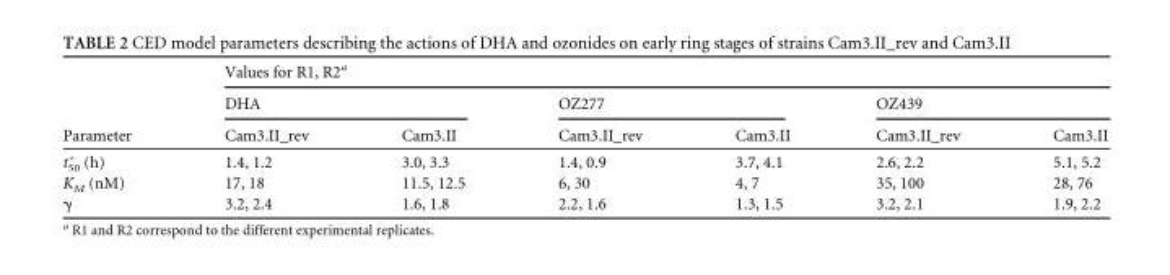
<table><thead><tr><td rowspan="3">Parameter</td><td colspan="6">Values for R1, R2<sup>a</sup></td></tr><tr><td colspan="2">DHA</td><td colspan="2">OZ277</td><td colspan="2">OZ439</td></tr><tr><td>Cam3.II_rev</td><td>Cam3.II</td><td>Cam3.II_rev</td><td>Cam3.II</td><td>Cam3.II_rev</td><td>Cam3.II</td></tr></thead><tbody><tr><td>tˆ50 (h)</td><td>1.4, 1.2</td><td>3.0, 3.3</td><td>1.4, 0.9</td><td>3.7, 4.1</td><td>2.6, 2.2</td><td>5.1, 5.2</td></tr><tr><td>K<sub>M</sub> (nM)</td><td>17, 18</td><td>11.5, 12.5</td><td>6, 30</td><td>4, 7</td><td>35, 100</td><td>28, 76</td></tr><tr><td>γ</td><td>3.2, 2.4</td><td>1.6, 1.8</td><td>2.2, 1.6</td><td>1.3, 1.5</td><td>3.2, 2.1</td><td>1.9, 2.2</td></tr></tbody></table>